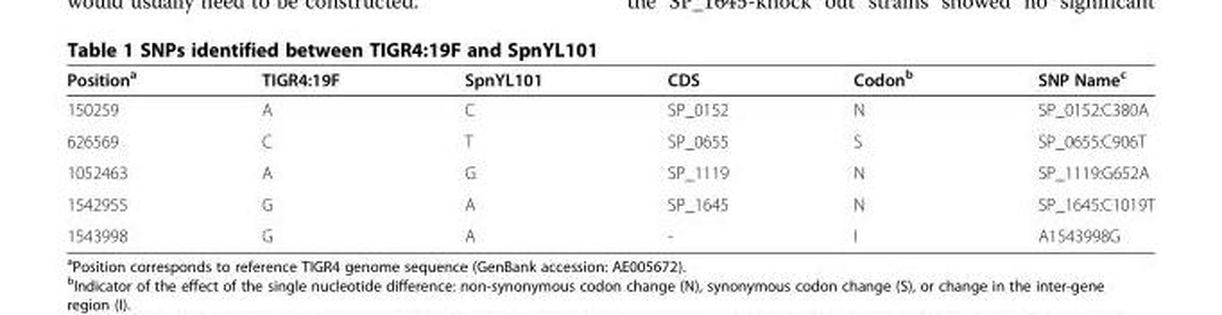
<table><thead><tr><td>Position<sup>a</sup></td><td>TIGR4:19F</td><td>SpnYL101</td><td>CDS</td><td>Codon<sup>b</sup></td><td>SNP Name<sup>c</sup></td></tr></thead><tbody><tr><td>150259</td><td>A</td><td>C</td><td>SP_0152</td><td>N</td><td>SP_0152:C380A</td></tr><tr><td>626569</td><td>C</td><td>T</td><td>SP_0655</td><td>S</td><td>SP_0655:C906T</td></tr><tr><td>1052463</td><td>A</td><td>G</td><td>SP_1119</td><td>N</td><td>SP_1119:G652A</td></tr><tr><td>1542955</td><td>G</td><td>A</td><td>SP_1645</td><td>N</td><td>SP_1645:C1019T</td></tr><tr><td>1543998</td><td>G</td><td>A</td><td>-</td><td>I</td><td>A1543998G</td></tr></tbody></table>